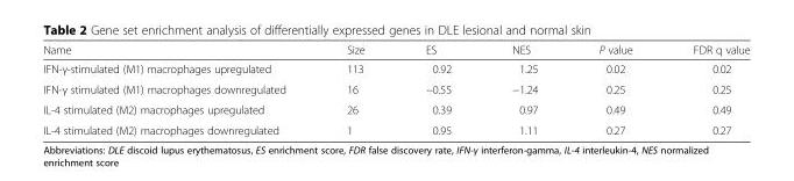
<table><thead><tr><td>Name</td><td>Size</td><td>ES</td><td>NES</td><td>P value</td><td>FDR q value</td></tr></thead><tbody><tr><td>IFN-γ-stimulated (M1) macrophages upregulated</td><td>113</td><td>0.92</td><td>1.25</td><td>0.02</td><td>0.02</td></tr><tr><td>IFN-γ stimulated (M1) macrophages downregulated</td><td>16</td><td>−0.55</td><td>−1.24</td><td>0.25</td><td>0.25</td></tr><tr><td>IL-4 stimulated (M2) macrophages upregulated</td><td>26</td><td>0.39</td><td>0.97</td><td>0.49</td><td>0.49</td></tr><tr><td>IL-4 stimulated (M2) macrophages downregulated</td><td>1</td><td>0.95</td><td>1.11</td><td>0.27</td><td>0.27</td></tr></tbody></table>